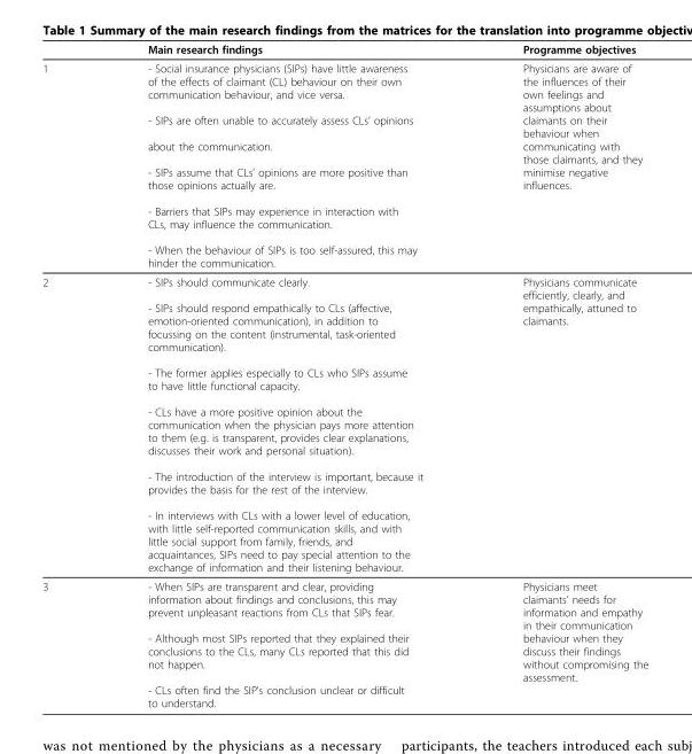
<table><thead><tr><td></td><td>Main research findings</td><td>Programme objectives</td></tr></thead><tbody><tr><td>1</td><td>- Social insurance physicians (SIPs) have little awareness of the effects of claimant (CL) behaviour on their own communication behaviour, and vice versa. - SIPs are often unable to accurately assess CLs’ opinions about the communication. - SIPs assume that CLs’ opinions are more positive than those opinions actually are. - Barriers that SIPs may experience in interaction with CLs, may influence the communication. - When the behaviour of SIPs is too self-assured, this may hinder the communication.</td><td>Physicians are aware of the influences of their own feelings and assumptions about claimants on their behaviour when communicating with those claimants, and they minimise negative influences.</td></tr><tr><td>2</td><td>- SIPs should communicate clearly. - SIPs should respond empathically to CLs (affective, emotion-oriented communication), in addition to focussing on the content (instrumental, task-oriented communication). - The former applies especially to CLs who SIPs assume to have little functional capacity. - CLs have a more positive opinion about the communication when the physician pays more attention to them (e.g. is transparent, provides clear explanations, discusses their work and personal situation). - The introduction of the interview is important, because it provides the basis for the rest of the interview. - In interviews with CLs with a lower level of education, with little self-reported communication skills, and with little social support from family, friends, and acquaintances, SIPs need to pay special attention to the exchange of information and their listening behaviour.</td><td>Physicians communicate efficiently, clearly, and empathically, attuned to claimants.</td></tr><tr><td>3</td><td>- When SIPs are transparent and clear, providing information about findings and conclusions, this may prevent unpleasant reactions from CLs that SIPs fear. - Although most SIPs reported that they explained their conclusions to the CLs, many CLs reported that this did not happen. - CLs often find the SIP’s conclusion unclear or difficult to understand.</td><td>Physicians meet claimants’ needs for information and empathy in their communication behaviour when they discuss their findings without compromising the assessment.</td></tr></tbody></table>